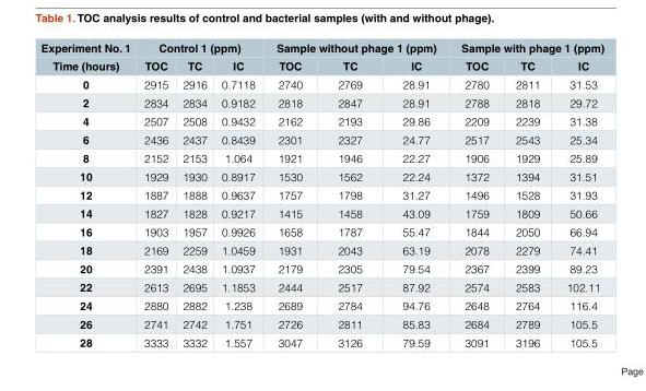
<table><thead><tr><td rowspan="2">Experiment No. 1 Time (hours)</td><td colspan="3">Control 1 (ppm)</td><td colspan="3">Sample without phage 1 (ppm)</td><td colspan="3">Sample with phage 1 (ppm)</td></tr><tr><td>TOC</td><td>TC</td><td>IC</td><td>TOC</td><td>TC</td><td>IC</td><td>TOC</td><td>TC</td><td>IC</td></tr></thead><tbody><tr><td>0</td><td>2915</td><td>2916</td><td>0.7118</td><td>2740</td><td>2769</td><td>28.91</td><td>2780</td><td>2811</td><td>31.53</td></tr><tr><td>2</td><td>2834</td><td>2834</td><td>0.9182</td><td>2818</td><td>2847</td><td>28.91</td><td>2788</td><td>2818</td><td>29.72</td></tr><tr><td>4</td><td>2507</td><td>2508</td><td>0.9432</td><td>2162</td><td>2193</td><td>29.86</td><td>2209</td><td>2239</td><td>31.38</td></tr><tr><td>6</td><td>2436</td><td>2437</td><td>0.8439</td><td>2301</td><td>2327</td><td>24.77</td><td>2517</td><td>2543</td><td>25.34</td></tr><tr><td>8</td><td>2152</td><td>2153</td><td>1.064</td><td>1921</td><td>1946</td><td>22.27</td><td>1906</td><td>1929</td><td>25.89</td></tr><tr><td>10</td><td>1929</td><td>1930</td><td>0.8917</td><td>1530</td><td>1562</td><td>22.24</td><td>1372</td><td>1394</td><td>31.51</td></tr><tr><td>12</td><td>1887</td><td>1888</td><td>0.9637</td><td>1757</td><td>1798</td><td>31.27</td><td>1496</td><td>1528</td><td>31.93</td></tr><tr><td>14</td><td>1827</td><td>1828</td><td>0.9217</td><td>1415</td><td>1458</td><td>43.09</td><td>1759</td><td>1809</td><td>50.66</td></tr><tr><td>16</td><td>1903</td><td>1957</td><td>0.9926</td><td>1658</td><td>1787</td><td>55.47</td><td>1844</td><td>2050</td><td>66.94</td></tr><tr><td>18</td><td>2169</td><td>2259</td><td>1.0459</td><td>1931</td><td>2043</td><td>63.19</td><td>2078</td><td>2279</td><td>74.41</td></tr><tr><td>20</td><td>2391</td><td>2438</td><td>1.0937</td><td>2179</td><td>2305</td><td>79.54</td><td>2367</td><td>2399</td><td>89.23</td></tr><tr><td>22</td><td>2613</td><td>2695</td><td>1.1853</td><td>2444</td><td>2517</td><td>87.92</td><td>2574</td><td>2583</td><td>102.11</td></tr><tr><td>24</td><td>2880</td><td>2882</td><td>1.238</td><td>2689</td><td>2784</td><td>94.76</td><td>2648</td><td>2764</td><td>116.4</td></tr><tr><td>26</td><td>2741</td><td>2742</td><td>1.751</td><td>2726</td><td>2811</td><td>85.83</td><td>2684</td><td>2789</td><td>105.5</td></tr><tr><td>28</td><td>3333</td><td>3332</td><td>1.557</td><td>3047</td><td>3126</td><td>79.59</td><td>3091</td><td>3196</td><td>105.5</td></tr></tbody></table>